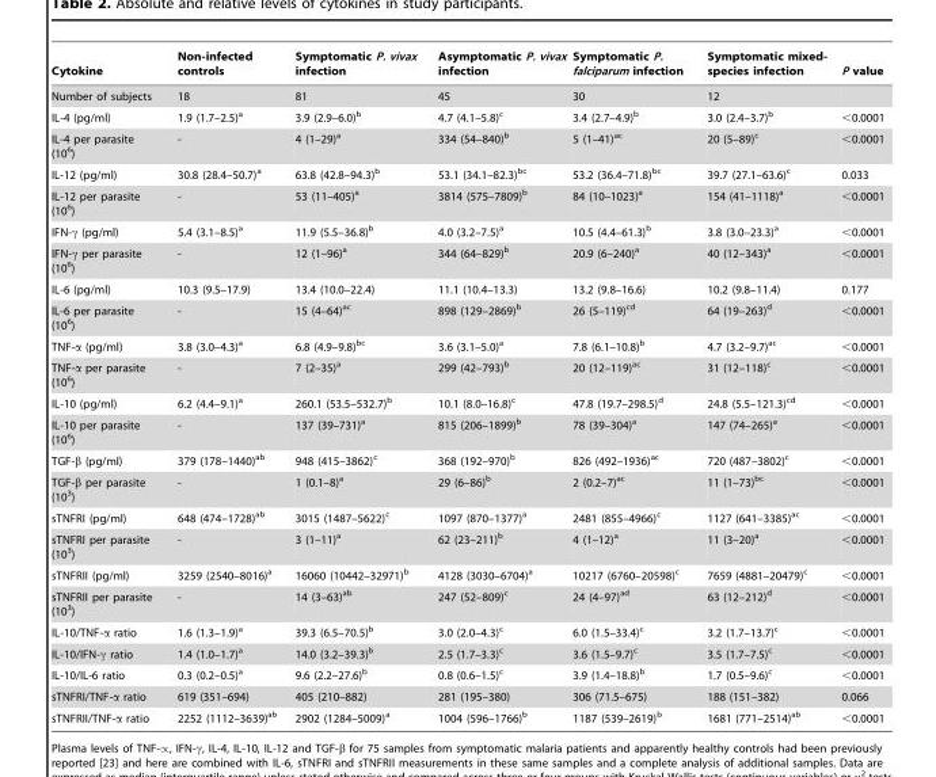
<table><thead><tr><td>Cytokine</td><td>Non-infected controls</td><td>Symptomatic P. vivax infection</td><td>Asymptomatic P. vivax infection</td><td>Symptomatic P. falciparum infection</td><td>Symptomatic mixed- species infection</td><td>P value</td></tr></thead><tbody><tr><td>Number of subjects</td><td>18</td><td>81</td><td>45</td><td>30</td><td>12</td><td></td></tr><tr><td>IL-4 (pg/ml)</td><td>1.9 (1.7–2.5)<sup>a</sup></td><td>3.9 (2.9–6.0)<sup>b</sup></td><td>4.7 (4.1–5.8)<sup>c</sup></td><td>3.4 (2.7–4.9)<sup>b</sup></td><td>3.0 (2.4–3.7)<sup>b</sup></td><td>&lt;0.0001</td></tr><tr><td>IL-4 per parasite (10<sup>6</sup>)</td><td>-</td><td>4 (1–29)<sup>a</sup></td><td>334 (54–840)<sup>b</sup></td><td>5 (1–41)<sup>ac</sup></td><td>20 (5–89)<sup>c</sup></td><td>&lt;0.0001</td></tr><tr><td>IL-12 (pg/ml)</td><td>30.8 (28.4–50.7)<sup>a</sup></td><td>63.8 (42.8–94.3)<sup>b</sup></td><td>53.1 (34.1–82.3)<sup>bc</sup></td><td>53.2 (36.4–71.8)<sup>bc</sup></td><td>39.7 (27.1–63.6)<sup>c</sup></td><td>0.033</td></tr><tr><td>IL-12 per parasite (10<sup>6</sup>)</td><td>-</td><td>53 (11–405)<sup>a</sup></td><td>3814 (575–7809)<sup>b</sup></td><td>84 (10–1023)<sup>a</sup></td><td>154 (41–1118)<sup>a</sup></td><td>&lt;0.0001</td></tr><tr><td>IFN-γ (pg/ml)</td><td>5.4 (3.1–8.5)<sup>a</sup></td><td>11.9 (5.5–36.8)<sup>b</sup></td><td>4.0 (3.2–7.5)<sup>a</sup></td><td>10.5 (4.4–61.3)<sup>b</sup></td><td>3.8 (3.0–23.3)<sup>a</sup></td><td>&lt;0.0001</td></tr><tr><td>IFN-γ per parasite (10<sup>6</sup>)</td><td>-</td><td>12 (1–96)<sup>a</sup></td><td>344 (64–829)<sup>b</sup></td><td>20.9 (6–240)<sup>a</sup></td><td>40 (12–343)<sup>a</sup></td><td>&lt;0.0001</td></tr><tr><td>IL-6 (pg/ml)</td><td>10.3 (9.5–17.9)</td><td>13.4 (10.0–22.4)</td><td>11.1 (10.4–13.3)</td><td>13.2 (9.8–16.6)</td><td>10.2 (9.8–11.4)</td><td>0.177</td></tr><tr><td>IL-6 per parasite (10<sup>6</sup>)</td><td>-</td><td>15 (4–64)<sup>ac</sup></td><td>898 (129–2869)<sup>b</sup></td><td>26 (5–119)<sup>cd</sup></td><td>64 (19–263)<sup>d</sup></td><td>&lt;0.0001</td></tr><tr><td>TNF-α (pg/ml)</td><td>3.8 (3.0–4.3)<sup>a</sup></td><td>6.8 (4.9–9.8)<sup>bc</sup></td><td>3.6 (3.1–5.0)<sup>a</sup></td><td>7.8 (6.1–10.8)<sup>b</sup></td><td>4.7 (3.2–9.7)<sup>ac</sup></td><td>&lt;0.0001</td></tr><tr><td>TNF-α per parasite (10<sup>6</sup>)</td><td>-</td><td>7 (2–35)<sup>a</sup></td><td>299 (42–793)<sup>b</sup></td><td>20 (12–119)<sup>ac</sup></td><td>31 (12–118)<sup>c</sup></td><td>&lt;0.0001</td></tr><tr><td>IL-10 (pg/ml)</td><td>6.2 (4.4–9.1)<sup>a</sup></td><td>260.1 (53.5–532.7)<sup>b</sup></td><td>10.1 (8.0–16.8)<sup>c</sup></td><td>47.8 (19.7–298.5)<sup>d</sup></td><td>24.8 (5.5–121.3)<sup>cd</sup></td><td>&lt;0.0001</td></tr><tr><td>IL-10 per parasite (10<sup>6</sup>)</td><td>-</td><td>137 (39–731)<sup>a</sup></td><td>815 (206–1899)<sup>b</sup></td><td>78 (39–304)<sup>a</sup></td><td>147 (74–265)<sup>a</sup></td><td>&lt;0.0001</td></tr><tr><td>TGF-β (pg/ml)</td><td>379 (178–1440)<sup>ab</sup></td><td>948 (415–3862)<sup>c</sup></td><td>368 (192–970)<sup>b</sup></td><td>826 (492–1936)<sup>ac</sup></td><td>720 (487–3802)<sup>c</sup></td><td>&lt;0.0001</td></tr><tr><td>TGF-β per parasite (10<sup>3</sup>)</td><td>-</td><td>1 (0.1–8)<sup>a</sup></td><td>29 (6–86)<sup>b</sup></td><td>2 (0.2–7)<sup>ac</sup></td><td>11 (1–73)<sup>bc</sup></td><td>&lt;0.0001</td></tr><tr><td>sTNFRI (pg/ml)</td><td>648 (474–1728)<sup>ab</sup></td><td>3015 (1487–5622)<sup>c</sup></td><td>1097 (870–1377)<sup>a</sup></td><td>2481 (855–4966)<sup>c</sup></td><td>1127 (641–3385)<sup>ac</sup></td><td>&lt;0.0001</td></tr><tr><td>sTNFRI per parasite (10<sup>3</sup>)</td><td>-</td><td>3 (1–11)<sup>a</sup></td><td>62 (23–211)<sup>b</sup></td><td>4 (1–12)<sup>a</sup></td><td>11 (3–20)<sup>a</sup></td><td>&lt;0.0001</td></tr><tr><td>sTNFRII (pg/ml)</td><td>3259 (2540–8016)<sup>a</sup></td><td>16060 (10442–32971)<sup>b</sup></td><td>4128 (3030–6704)<sup>a</sup></td><td>10217 (6760–20598)<sup>c</sup></td><td>7659 (4881–20479)<sup>c</sup></td><td>&lt;0.0001</td></tr><tr><td>sTNFRII per parasite (10<sup>3</sup>)</td><td>-</td><td>14 (3–63)<sup>ab</sup></td><td>247 (52–809)<sup>c</sup></td><td>24 (4–97)<sup>ad</sup></td><td>63 (12–212)<sup>d</sup></td><td>&lt;0.0001</td></tr><tr><td>IL-10/TNF-α ratio</td><td>1.6 (1.3–1.9)<sup>a</sup></td><td>39.3 (6.5–70.5)<sup>b</sup></td><td>3.0 (2.0–4.3)<sup>c</sup></td><td>6.0 (1.5–33.4)<sup>c</sup></td><td>3.2 (1.7–13.7)<sup>c</sup></td><td>&lt;0.0001</td></tr><tr><td>IL-10/IFN-γ ratio</td><td>1.4 (1.0–1.7)<sup>a</sup></td><td>14.0 (3.2–39.3)<sup>b</sup></td><td>2.5 (1.7–3.3)<sup>c</sup></td><td>3.6 (1.5–9.7)<sup>c</sup></td><td>3.5 (1.7–7.5)<sup>c</sup></td><td>&lt;0.0001</td></tr><tr><td>IL-10/IL-6 ratio</td><td>0.3 (0.2–0.5)<sup>a</sup></td><td>9.6 (2.2–27.6)<sup>b</sup></td><td>0.8 (0.6–1.5)<sup>c</sup></td><td>3.9 (1.4–18.8)<sup>b</sup></td><td>1.7 (0.5–9.6)<sup>c</sup></td><td>&lt;0.0001</td></tr><tr><td>sTNFRI/TNF-α ratio</td><td>619 (351–694)</td><td>405 (210–882)</td><td>281 (195–380)</td><td>306 (71.5–675)</td><td>188 (151–382)</td><td>0.066</td></tr><tr><td>sTNFRII/TNF-α ratio</td><td>2252 (1112–3639)<sup>ab</sup></td><td>2902 (1284–5009)<sup>a</sup></td><td>1004 (596–1766)<sup>b</sup></td><td>1187 (539–2619)<sup>b</sup></td><td>1681 (771–2514)<sup>ab</sup></td><td>&lt;0.0001</td></tr></tbody></table>